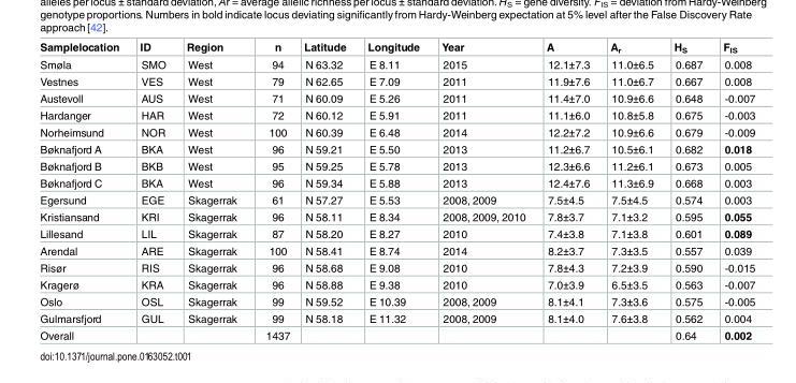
<table><thead><tr><td>Samplelocation</td><td>ID</td><td>Region</td><td>n</td><td>Latitude</td><td>Longitude</td><td>Year</td><td>A</td><td>A<sub>r</sub></td><td>H<sub>S</sub></td><td>F<sub>IS</sub></td></tr></thead><tbody><tr><td>Smøla</td><td>SMO</td><td>West</td><td>94</td><td>N 63.32</td><td>E 8.11</td><td>2015</td><td>12.1±7.3</td><td>11.0±6.5</td><td>0.687</td><td>0.008</td></tr><tr><td>Vestnes</td><td>VES</td><td>West</td><td>79</td><td>N 62.65</td><td>E 7.09</td><td>2011</td><td>11.9±7.6</td><td>11.0±6.7</td><td>0.667</td><td>0.008</td></tr><tr><td>Austevoll</td><td>AUS</td><td>West</td><td>71</td><td>N 60.09</td><td>E 5.26</td><td>2011</td><td>11.4±7.0</td><td>10.9±6.6</td><td>0.648</td><td>-0.007</td></tr><tr><td>Hardanger</td><td>HAR</td><td>West</td><td>72</td><td>N 60.12</td><td>E 5.91</td><td>2011</td><td>11.1±6.0</td><td>10.8±5.8</td><td>0.675</td><td>-0.003</td></tr><tr><td>Norheimsund</td><td>NOR</td><td>West</td><td>100</td><td>N 60.39</td><td>E 6.48</td><td>2014</td><td>12.2±7.2</td><td>10.9±6.6</td><td>0.679</td><td>-0.009</td></tr><tr><td>Bøknafjord A</td><td>BKA</td><td>West</td><td>96</td><td>N 59.21</td><td>E 5.50</td><td>2013</td><td>11.2±6.7</td><td>10.5±6.1</td><td>0.682</td><td>0.018</td></tr><tr><td>Bøknafjord B</td><td>BKB</td><td>West</td><td>95</td><td>N 59.25</td><td>E 5.78</td><td>2013</td><td>12.3±6.6</td><td>11.2±6.1</td><td>0.673</td><td>0.005</td></tr><tr><td>Bøknafjord C</td><td>BKA</td><td>West</td><td>96</td><td>N 59.34</td><td>E 5.88</td><td>2013</td><td>12.4±7.6</td><td>11.3±6.9</td><td>0.668</td><td>0.003</td></tr><tr><td>Egersund</td><td>EGE</td><td>Skagerrak</td><td>61</td><td>N 57.27</td><td>E 5.53</td><td>2008, 2009</td><td>7.5±4.5</td><td>7.5±4.5</td><td>0.574</td><td>0.003</td></tr><tr><td>Kristiansand</td><td>KRI</td><td>Skagerrak</td><td>96</td><td>N 58.11</td><td>E 8.34</td><td>2008, 2009, 2010</td><td>7.8±3.7</td><td>7.1±3.2</td><td>0.595</td><td>0.055</td></tr><tr><td>Lillesand</td><td>LIL</td><td>Skagerrak</td><td>87</td><td>N 58.20</td><td>E 8.27</td><td>2010</td><td>7.4±3.8</td><td>7.1±3.8</td><td>0.601</td><td>0.089</td></tr><tr><td>Arendal</td><td>ARE</td><td>Skagerrak</td><td>100</td><td>N 58.41</td><td>E 8.74</td><td>2014</td><td>8.2±3.7</td><td>7.3±3.5</td><td>0.557</td><td>0.039</td></tr><tr><td>Risør</td><td>RIS</td><td>Skagerrak</td><td>96</td><td>N 58.68</td><td>E 9.08</td><td>2010</td><td>7.8±4.3</td><td>7.2±3.9</td><td>0.590</td><td>-0.015</td></tr><tr><td>Kragerø</td><td>KRA</td><td>Skagerrak</td><td>96</td><td>N 58.88</td><td>E 9.38</td><td>2010</td><td>7.0±3.9</td><td>6.5±3.5</td><td>0.563</td><td>-0.007</td></tr><tr><td>Oslo</td><td>OSL</td><td>Skagerrak</td><td>99</td><td>N 59.52</td><td>E 10.39</td><td>2008, 2009</td><td>8.1±4.1</td><td>7.3±3.6</td><td>0.575</td><td>-0.005</td></tr><tr><td>Gulmarsfjord</td><td>GUL</td><td>Skagerrak</td><td>99</td><td>N 58.18</td><td>E 11.32</td><td>2008, 2009</td><td>8.1±4.0</td><td>7.6±3.8</td><td>0.562</td><td>0.004</td></tr><tr><td>Overall</td><td></td><td></td><td>1437</td><td></td><td></td><td></td><td></td><td></td><td>0.64</td><td>0.002</td></tr></tbody></table>